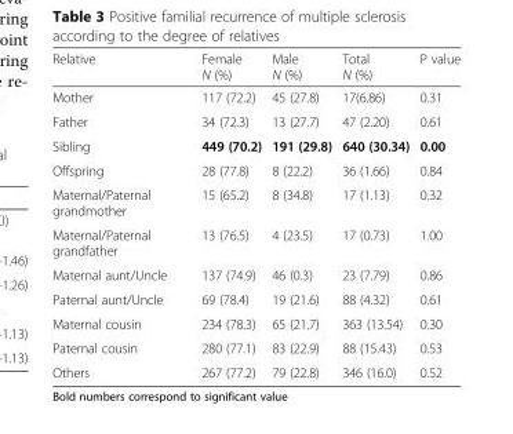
<table><thead><tr><td>Relative</td><td>Female N (%)</td><td>Male N (%)</td><td>Total N (%)</td><td>P value</td></tr></thead><tbody><tr><td>Mother</td><td>117 (72.2)</td><td>45 (27.8)</td><td>17(6.86)</td><td>0.31</td></tr><tr><td>Father</td><td>34 (72.3)</td><td>13 (27.7)</td><td>47 (2.20)</td><td>0.61</td></tr><tr><td>Sibling</td><td>449 (70.2)</td><td>191 (29.8)</td><td>640 (30.34)</td><td>0.00</td></tr><tr><td>Offspring</td><td>28 (77.8)</td><td>8 (22.2)</td><td>36 (1.66)</td><td>0.84</td></tr><tr><td>Maternal/Paternal grandmother</td><td>15 (65.2)</td><td>8 (34.8)</td><td>17 (1.13)</td><td>0.32</td></tr><tr><td>Maternal/Paternal grandfather</td><td>13 (76.5)</td><td>4 (23.5)</td><td>17 (0.73)</td><td>1.00</td></tr><tr><td>Maternal aunt/Uncle</td><td>137 (74.9)</td><td>46 (0.3)</td><td>23 (7.79)</td><td>0.86</td></tr><tr><td>Paternal aunt/Uncle</td><td>69 (78.4)</td><td>19 (21.6)</td><td>88 (4.32)</td><td>0.61</td></tr><tr><td>Maternal cousin</td><td>234 (78.3)</td><td>65 (21.7)</td><td>363 (13.54)</td><td>0.30</td></tr><tr><td>Paternal cousin</td><td>280 (77.1)</td><td>83 (22.9)</td><td>88 (15.43)</td><td>0.53</td></tr><tr><td>Others</td><td>267 (77.2)</td><td>79 (22.8)</td><td>346 (16.0)</td><td>0.52</td></tr></tbody></table>